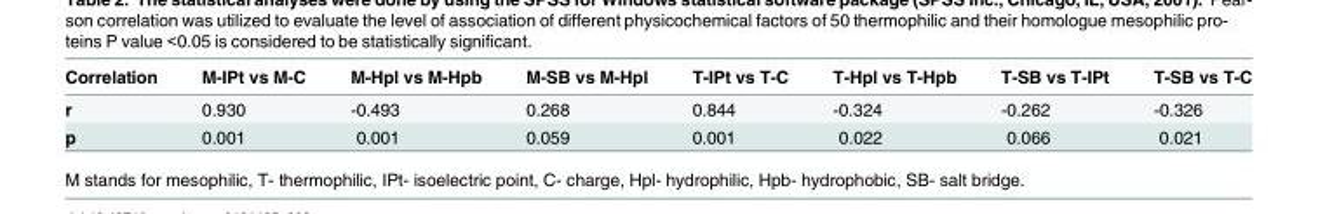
<table><thead><tr><td>Correlation</td><td>M-IPt vs M-C</td><td>M-Hpl vs M-Hpb</td><td>M-SB vs M-Hpl</td><td>T-IPt vs T-C</td><td>T-Hpl vs T-Hpb</td><td>T-SB vs T-IPt</td><td>T-SB vs T-C</td></tr></thead><tbody><tr><td>r</td><td>0.930</td><td>-0.493</td><td>0.268</td><td>0.844</td><td>-0.324</td><td>-0.262</td><td>-0.326</td></tr><tr><td>p</td><td>0.001</td><td>0.001</td><td>0.059</td><td>0.001</td><td>0.022</td><td>0.066</td><td>0.021</td></tr></tbody></table>